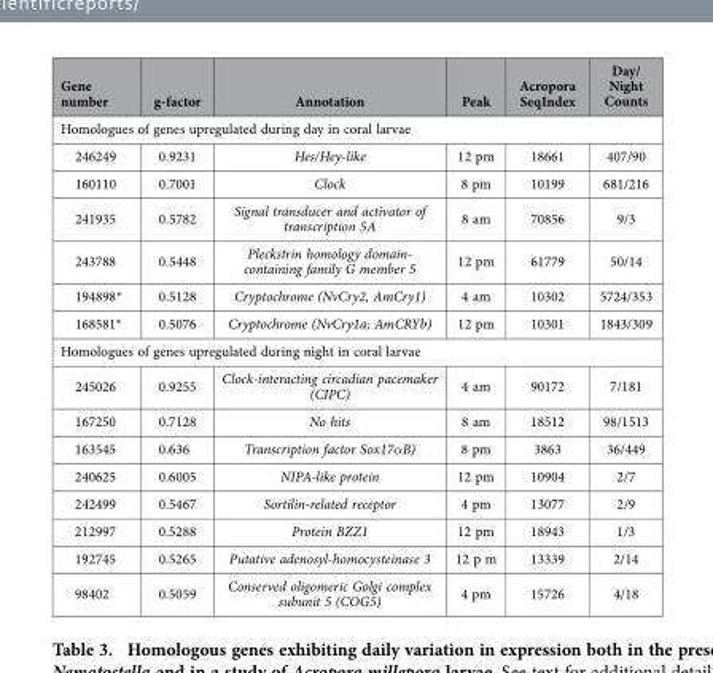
<table><thead><tr><td>Gene number</td><td>g-factor</td><td>Annotation</td><td>Peak</td><td>Acropora SeqIndex</td><td>Day/ Night Counts</td></tr></thead><tbody><tr><td colspan="6">Homologues of genes upregulated during day in coral larvae</td></tr><tr><td>246249</td><td>0.9231</td><td>Hes/Hey-like</td><td>12 pm</td><td>18661</td><td>407/90</td></tr><tr><td>160110</td><td>0.7001</td><td>Clock</td><td>8 pm</td><td>10199</td><td>681/216</td></tr><tr><td>241935</td><td>0.5782</td><td>Signal transducer and activator of transcription 5A</td><td>8 am</td><td>70856</td><td>9/3</td></tr><tr><td>243788</td><td>0.5448</td><td>Pleckstrin homology domain- containing family G member 5</td><td>12 pm</td><td>61779</td><td>50/14</td></tr><tr><td>194898*</td><td>0.5128</td><td>Cryptochrome (NvCry2, AmCry1)</td><td>4 am</td><td>10302</td><td>5724/353</td></tr><tr><td>168581*</td><td>0.5076</td><td>Cryptochrome (NvCry1a; AmCRYb)</td><td>12 pm</td><td>10301</td><td>1843/309</td></tr><tr><td colspan="6">Homologues of genes upregulated during night in coral larvae</td></tr><tr><td>245026</td><td>0.9255</td><td>Clock-interacting circadian pacemaker (CIPC)</td><td>4 am</td><td>90172</td><td>7/181</td></tr><tr><td>167250</td><td>0.7128</td><td>No hits</td><td>8 am</td><td>18512</td><td>98/1513</td></tr><tr><td>163545</td><td>0.636</td><td>Transcription factor Sox17αB)</td><td>8 pm</td><td>3863</td><td>36/449</td></tr><tr><td>240625</td><td>0.6005</td><td>NIPA-like protein</td><td>12 pm</td><td>10904</td><td>2/7</td></tr><tr><td>242499</td><td>0.5467</td><td>Sortilin-related receptor</td><td>4 pm</td><td>13077</td><td>2/9</td></tr><tr><td>212997</td><td>0.5288</td><td>Protein BZZ1</td><td>12 pm</td><td>18943</td><td>1/3</td></tr><tr><td>192745</td><td>0.5265</td><td>Putative adenosyl-homocysteinase 3</td><td>12 p m</td><td>13339</td><td>2/14</td></tr><tr><td>98402</td><td>0.5059</td><td>Conserved oligomeric Golgi complex subunit 5 (COG5)</td><td>4 pm</td><td>15726</td><td>4/18</td></tr></tbody></table>